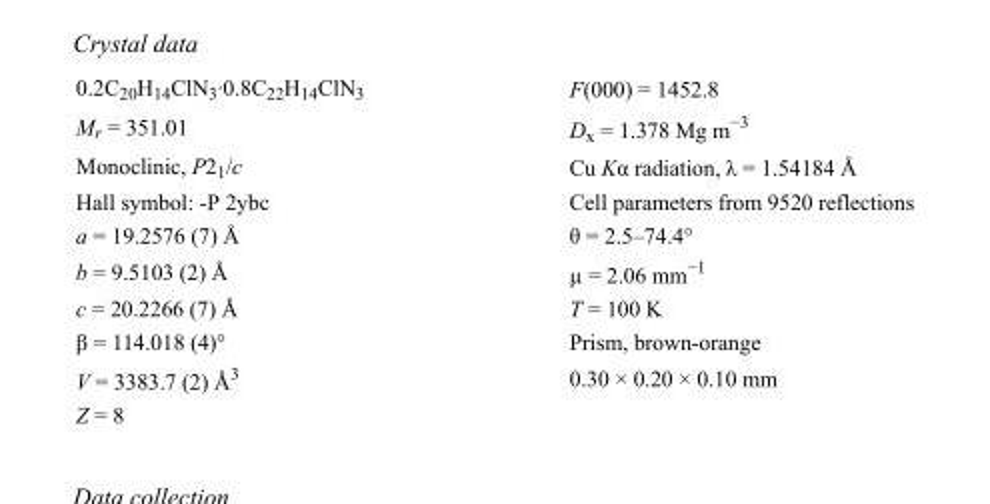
<table><tbody><tr><td>0.2C<sub>20</sub>H<sub>14</sub>ClN<sub>3</sub>·0.8C<sub>22</sub>H<sub>14</sub>ClN<sub>3</sub></td><td>F(000) = 1452.8</td></tr><tr><td>M<sub>r</sub> = 351.01</td><td>D<sub>x</sub> = 1.378 Mg m<sup>−3</sup></td></tr><tr><td>Monoclinic, P2<sub>1</sub>/c</td><td>Cu Kα radiation, λ = 1.54184 Å</td></tr><tr><td>Hall symbol: -P 2ybc</td><td>Cell parameters from 9520 reflections</td></tr><tr><td>a = 19.2576 (7) Å</td><td>θ = 2.5–74.4°</td></tr><tr><td>b = 9.5103 (2) Å</td><td>µ = 2.06 mm<sup>−1</sup></td></tr><tr><td>c = 20.2266 (7) Å</td><td>T = 100 K</td></tr><tr><td>β = 114.018 (4)°</td><td>Prism, brown-orange</td></tr><tr><td>V = 3383.7 (2) Å<sup>3</sup></td><td>0.30 × 0.20 × 0.10 mm</td></tr><tr><td>Z = 8</td><td></td></tr></tbody></table>